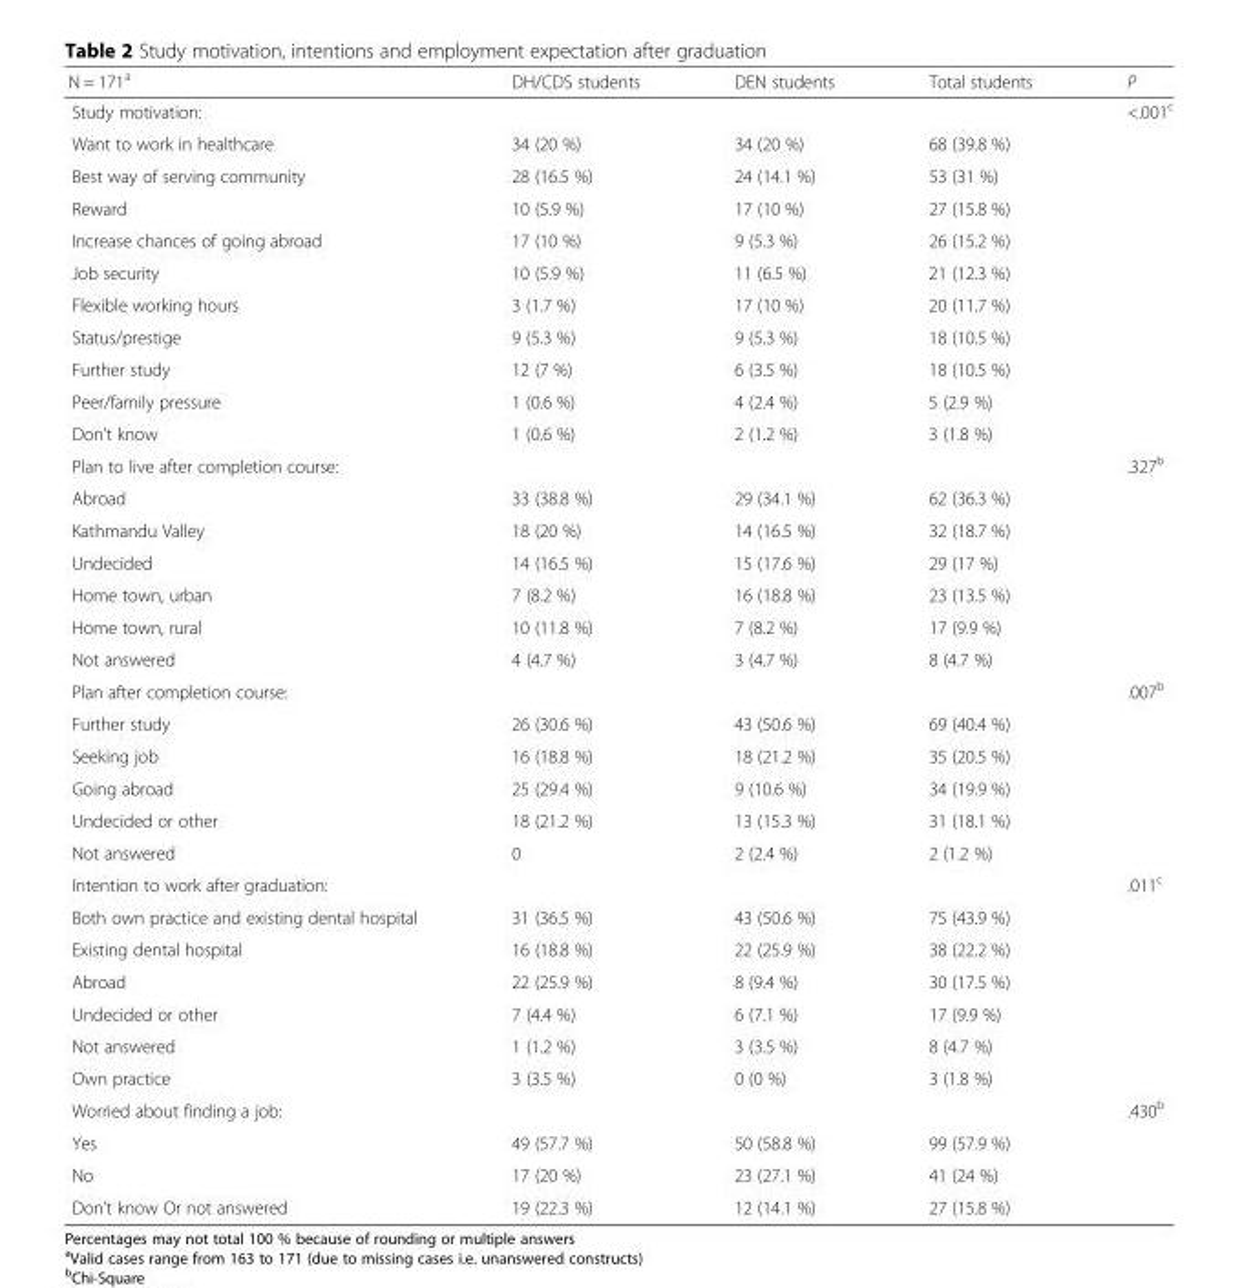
<table><thead><tr><td>N = 171<sup>a</sup></td><td>DH/CDS students</td><td>DEN students</td><td>Total students</td><td>P</td></tr></thead><tbody><tr><td>Study motivation:</td><td></td><td></td><td></td><td>&lt;.001<sup>c</sup></td></tr><tr><td>Want to work in healthcare</td><td>34 (20 %)</td><td>34 (20 %)</td><td>68 (39.8 %)</td><td></td></tr><tr><td>Best way of serving community</td><td>28 (16.5 %)</td><td>24 (14.1 %)</td><td>53 (31 %)</td><td></td></tr><tr><td>Reward</td><td>10 (5.9 %)</td><td>17 (10 %)</td><td>27 (15.8 %)</td><td></td></tr><tr><td>Increase chances of going abroad</td><td>17 (10 %)</td><td>9 (5.3 %)</td><td>26 (15.2 %)</td><td></td></tr><tr><td>Job security</td><td>10 (5.9 %)</td><td>11 (6.5 %)</td><td>21 (12.3 %)</td><td></td></tr><tr><td>Flexible working hours</td><td>3 (1.7 %)</td><td>17 (10 %)</td><td>20 (11.7 %)</td><td></td></tr><tr><td>Status/prestige</td><td>9 (5.3 %)</td><td>9 (5.3 %)</td><td>18 (10.5 %)</td><td></td></tr><tr><td>Further study</td><td>12 (7 %)</td><td>6 (3.5 %)</td><td>18 (10.5 %)</td><td></td></tr><tr><td>Peer/family pressure</td><td>1 (0.6 %)</td><td>4 (2.4 %)</td><td>5 (2.9 %)</td><td></td></tr><tr><td>Don’t know</td><td>1 (0.6 %)</td><td>2 (1.2 %)</td><td>3 (1.8 %)</td><td></td></tr><tr><td>Plan to live after completion course:</td><td></td><td></td><td></td><td>.327<sup>b</sup></td></tr><tr><td>Abroad</td><td>33 (38.8 %)</td><td>29 (34.1 %)</td><td>62 (36.3 %)</td><td></td></tr><tr><td>Kathmandu Valley</td><td>18 (20 %)</td><td>14 (16.5 %)</td><td>32 (18.7 %)</td><td></td></tr><tr><td>Undecided</td><td>14 (16.5 %)</td><td>15 (17.6 %)</td><td>29 (17 %)</td><td></td></tr><tr><td>Home town, urban</td><td>7 (8.2 %)</td><td>16 (18.8 %)</td><td>23 (13.5 %)</td><td></td></tr><tr><td>Home town, rural</td><td>10 (11.8 %)</td><td>7 (8.2 %)</td><td>17 (9.9 %)</td><td></td></tr><tr><td>Not answered</td><td>4 (4.7 %)</td><td>3 (4.7 %)</td><td>8 (4.7 %)</td><td></td></tr><tr><td>Plan after completion course:</td><td></td><td></td><td></td><td>.007<sup>b</sup></td></tr><tr><td>Further study</td><td>26 (30.6 %)</td><td>43 (50.6 %)</td><td>69 (40.4 %)</td><td></td></tr><tr><td>Seeking job</td><td>16 (18.8 %)</td><td>18 (21.2 %)</td><td>35 (20.5 %)</td><td></td></tr><tr><td>Going abroad</td><td>25 (29.4 %)</td><td>9 (10.6 %)</td><td>34 (19.9 %)</td><td></td></tr><tr><td>Undecided or other</td><td>18 (21.2 %)</td><td>13 (15.3 %)</td><td>31 (18.1 %)</td><td></td></tr><tr><td>Not answered</td><td>0</td><td>2 (2.4 %)</td><td>2 (1.2 %)</td><td></td></tr><tr><td>Intention to work after graduation:</td><td></td><td></td><td></td><td>.011<sup>c</sup></td></tr><tr><td>Both own practice and existing dental hospital</td><td>31 (36.5 %)</td><td>43 (50.6 %)</td><td>75 (43.9 %)</td><td></td></tr><tr><td>Existing dental hospital</td><td>16 (18.8 %)</td><td>22 (25.9 %)</td><td>38 (22.2 %)</td><td></td></tr><tr><td>Abroad</td><td>22 (25.9 %)</td><td>8 (9.4 %)</td><td>30 (17.5 %)</td><td></td></tr><tr><td>Undecided or other</td><td>7 (4.4 %)</td><td>6 (7.1 %)</td><td>17 (9.9 %)</td><td></td></tr><tr><td>Not answered</td><td>1 (1.2 %)</td><td>3 (3.5 %)</td><td>8 (4.7 %)</td><td></td></tr><tr><td>Own practice</td><td>3 (3.5 %)</td><td>0 (0 %)</td><td>3 (1.8 %)</td><td></td></tr><tr><td>Worried about finding a job:</td><td></td><td></td><td></td><td>.430<sup>b</sup></td></tr><tr><td>Yes</td><td>49 (57.7 %)</td><td>50 (58.8 %)</td><td>99 (57.9 %)</td><td></td></tr><tr><td>No</td><td>17 (20 %)</td><td>23 (27.1 %)</td><td>41 (24 %)</td><td></td></tr><tr><td>Don’t know Or not answered</td><td>19 (22.3 %)</td><td>12 (14.1 %)</td><td>27 (15.8 %)</td><td></td></tr></tbody></table>